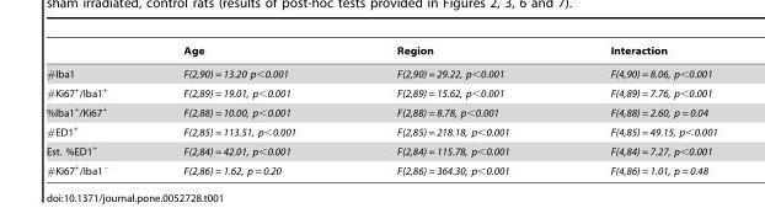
<table><thead><tr><td></td><td>Age</td><td>Region</td><td>Interaction</td></tr></thead><tbody><tr><td>#Iba1</td><td>F(2,90) = 13.20 p&lt;0.001</td><td>F(2,90) = 29.22, p&lt;0.001</td><td>F(4,90) = 8.06, p&lt;0.001</td></tr><tr><td>#Ki67<sup>+</sup>/Iba1<sup>+</sup></td><td>F(2,89) = 19.01, p&lt;0.001</td><td>F(2,89) = 15.62, p&lt;0.001</td><td>F(4,89) = 7.76, p&lt;0.001</td></tr><tr><td>%Iba1<sup>+</sup>/Ki67<sup>+</sup></td><td>F(2,88) = 10.00, p&lt;0.001</td><td>F(2,88) = 8.78, p&lt;0.001</td><td>F(4,88) = 2.60, p = 0.04</td></tr><tr><td>#ED1<sup>+</sup></td><td>F(2,85) = 113.51, p&lt;0.001</td><td>F(2,85) = 218.18, p&lt;0.001</td><td>F(4,85) = 49.15, p&lt;0.001</td></tr><tr><td>Est. %ED1<sup>+</sup></td><td>F(2,84) = 42.01, p&lt;0.001</td><td>F(2,84) = 115.78, p&lt;0.001</td><td>F(4,84) = 7.27, p&lt;0.001</td></tr><tr><td>#Ki67<sup>+</sup>/Iba1<sup>−</sup></td><td>F(2,86) = 1.62, p = 0.20</td><td>F(2,86) = 364.30, p&lt;0.001</td><td>F(4,86) = 1.01, p = 0.48</td></tr></tbody></table>